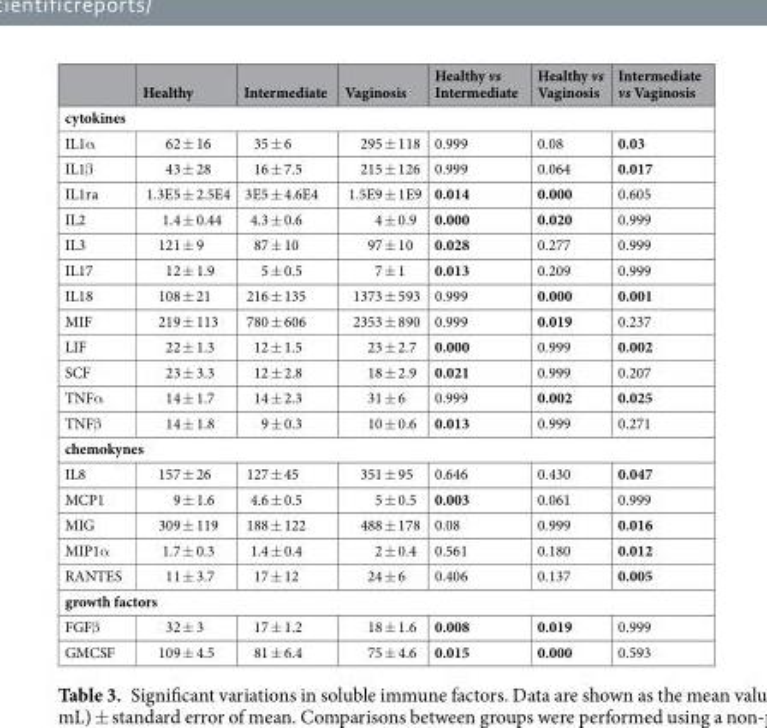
<table><thead><tr><td></td><td>Healthy</td><td>Intermediate</td><td>Vaginosis</td><td>Healthy vs Intermediate</td><td>Healthy vs Vaginosis</td><td>Intermediate vs Vaginosis</td></tr></thead><tbody><tr><td colspan="7">cytokines</td></tr><tr><td>IL1α</td><td>62 ± 16</td><td>35 ± 6</td><td>295 ± 118</td><td>0.999</td><td>0.08</td><td>0.03</td></tr><tr><td>IL1β</td><td>43 ± 28</td><td>16 ± 7.5</td><td>215 ± 126</td><td>0.999</td><td>0.064</td><td>0.017</td></tr><tr><td>IL1ra</td><td>1.3E5 ± 2.5E4</td><td>3E5 ± 4.6E4</td><td>1.5E9 ± 1E9</td><td>0.014</td><td>0.000</td><td>0.605</td></tr><tr><td>IL2</td><td>1.4 ± 0.44</td><td>4.3 ± 0.6</td><td>4 ± 0.9</td><td>0.000</td><td>0.020</td><td>0.999</td></tr><tr><td>IL3</td><td>121 ± 9</td><td>87 ± 10</td><td>97 ± 10</td><td>0.028</td><td>0.277</td><td>0.999</td></tr><tr><td>IL17</td><td>12 ± 1.9</td><td>5 ± 0.5</td><td>7 ± 1</td><td>0.013</td><td>0.209</td><td>0.999</td></tr><tr><td>IL18</td><td>108 ± 21</td><td>216 ± 135</td><td>1373 ± 593</td><td>0.999</td><td>0.000</td><td>0.001</td></tr><tr><td>MIF</td><td>219 ± 113</td><td>780 ± 606</td><td>2353 ± 890</td><td>0.999</td><td>0.019</td><td>0.237</td></tr><tr><td>LIF</td><td>22 ± 1.3</td><td>12 ± 1.5</td><td>23 ± 2.7</td><td>0.000</td><td>0.999</td><td>0.002</td></tr><tr><td>SCF</td><td>23 ± 3.3</td><td>12 ± 2.8</td><td>18 ± 2.9</td><td>0.021</td><td>0.999</td><td>0.207</td></tr><tr><td>TNFα</td><td>14 ± 1.7</td><td>14 ± 2.3</td><td>31 ± 6</td><td>0.999</td><td>0.002</td><td>0.025</td></tr><tr><td>TNFβ</td><td>14 ± 1.8</td><td>9 ± 0.3</td><td>10 ± 0.6</td><td>0.013</td><td>0.999</td><td>0.271</td></tr><tr><td colspan="7">chemokynes</td></tr><tr><td>IL8</td><td>157 ± 26</td><td>127 ± 45</td><td>351 ± 95</td><td>0.646</td><td>0.430</td><td>0.047</td></tr><tr><td>MCP1</td><td>9 ± 1.6</td><td>4.6 ± 0.5</td><td>5 ± 0.5</td><td>0.003</td><td>0.061</td><td>0.999</td></tr><tr><td>MIG</td><td>309 ± 119</td><td>188 ± 122</td><td>488 ± 178</td><td>0.08</td><td>0.999</td><td>0.016</td></tr><tr><td>MIP1α</td><td>1.7 ± 0.3</td><td>1.4 ± 0.4</td><td>2 ± 0.4</td><td>0.561</td><td>0.180</td><td>0.012</td></tr><tr><td>RANTES</td><td>11 ± 3.7</td><td>17 ± 12</td><td>24 ± 6</td><td>0.406</td><td>0.137</td><td>0.005</td></tr><tr><td colspan="7">growth factors</td></tr><tr><td>FGFβ</td><td>32 ± 3</td><td>17 ± 1.2</td><td>18 ± 1.6</td><td>0.008</td><td>0.019</td><td>0.999</td></tr><tr><td>GMCSF</td><td>109 ± 4.5</td><td>81 ± 6.4</td><td>75 ± 4.6</td><td>0.015</td><td>0.000</td><td>0.593</td></tr></tbody></table>